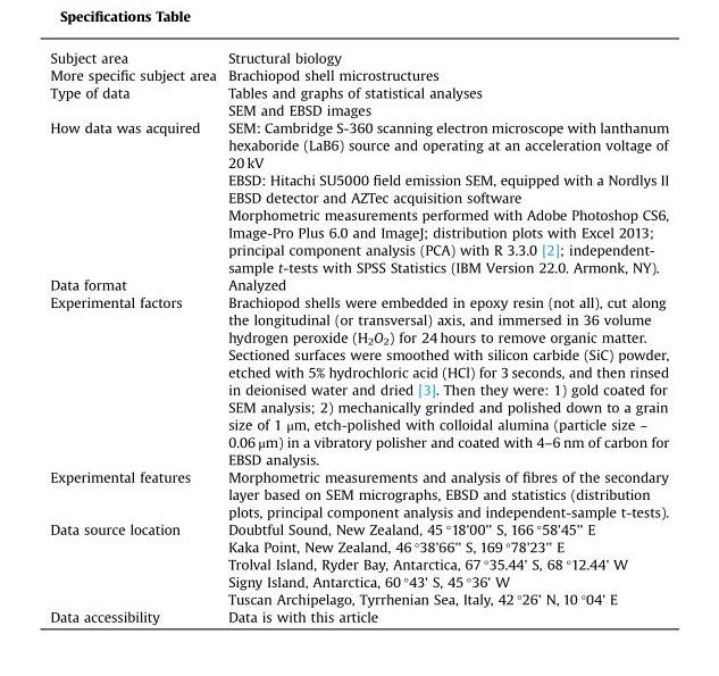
<table><tbody><tr><td>Subject area</td><td>Structural biology</td></tr><tr><td>More specific subject area</td><td>Brachiopod shell microstructures</td></tr><tr><td rowspan="2">Type of data</td><td>Tables and graphs of statistical analyses</td></tr><tr><td>SEM and EBSD images</td></tr><tr><td rowspan="3">How data was acquired</td><td>SEM: Cambridge S-360 scanning electron microscope with lanthanum hexaboride (LaB6) source and operating at an acceleration voltage of 20 kV</td></tr><tr><td>EBSD: Hitachi SU5000 field emission SEM, equipped with a Nordlys II EBSD detector and AZTec acquisition software</td></tr><tr><td>Morphometric measurements performed with Adobe Photoshop CS6, Image-Pro Plus 6.0 and ImageJ; distribution plots with Excel 2013; principal component analysis (PCA) with R 3.3.0 [2]; independent- sample t-tests with SPSS Statistics (IBM Version 22.0. Armonk, NY).</td></tr><tr><td>Data format</td><td>Analyzed</td></tr><tr><td>Experimental factors</td><td>Brachiopod shells were embedded in epoxy resin (not all), cut along the longitudinal (or transversal) axis, and immersed in 36 volume hydrogen peroxide (H<sub>2</sub>O<sub>2</sub>) for 24 hours to remove organic matter. Sectioned surfaces were smoothed with silicon carbide (SiC) powder, etched with 5% hydrochloric acid (HCl) for 3 seconds, and then rinsed in deionised water and dried [3]. Then they were: 1) gold coated for SEM analysis; 2) mechanically grinded and polished down to a grain size of 1 μm, etch-polished with colloidal alumina (particle size ~ 0.06 μm) in a vibratory polisher and coated with 4–6 nm of carbon for EBSD analysis.</td></tr><tr><td>Experimental features</td><td>Morphometric measurements and analysis of fibres of the secondary layer based on SEM micrographs, EBSD and statistics (distribution plots, principal component analysis and independent-sample t-tests).</td></tr><tr><td rowspan="5">Data source location</td><td>Doubtful Sound, New Zealand, 45 °18&#x27;00&#x27;&#x27; S, 166 °58&#x27;45&#x27;&#x27; E</td></tr><tr><td>Kaka Point, New Zealand, 46 °38&#x27;66&#x27;&#x27; S, 169 °78&#x27;23&#x27;&#x27; E</td></tr><tr><td>Trolval Island, Ryder Bay, Antarctica, 67 °35.44&#x27; S, 68 °12.44&#x27; W</td></tr><tr><td>Signy Island, Antarctica, 60 °43&#x27; S, 45 °36&#x27; W</td></tr><tr><td>Tuscan Archipelago, Tyrrhenian Sea, Italy, 42 °26&#x27; N, 10 °04&#x27; E</td></tr><tr><td>Data accessibility</td><td>Data is with this article</td></tr></tbody></table>